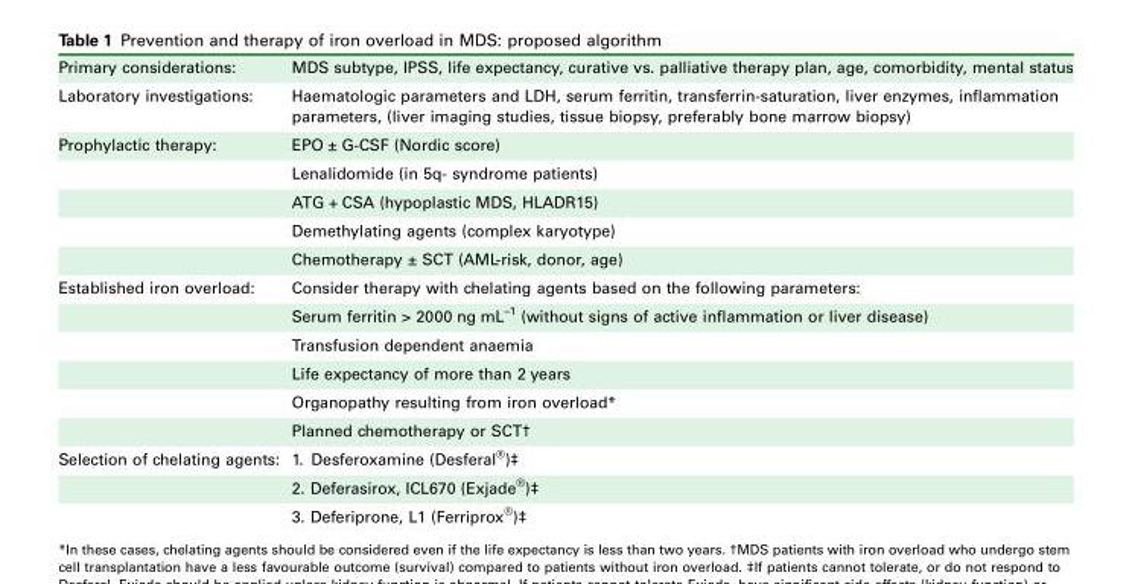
<table><tbody><tr><td>Primary considerations:</td><td>MDS subtype, IPSS, life expectancy, curative vs. palliative therapy plan, age, comorbidity, mental status</td></tr><tr><td>Laboratory investigations:</td><td>Haematologic parameters and LDH, serum ferritin, transferrin-saturation, liver enzymes, inflammation parameters, (liver imaging studies, tissue biopsy, preferably bone marrow biopsy)</td></tr><tr><td rowspan="5">Prophylactic therapy:</td><td>EPO ± G-CSF (Nordic score)</td></tr><tr><td>Lenalidomide (in 5q- syndrome patients)</td></tr><tr><td>ATG + CSA (hypoplastic MDS, HLADR15)</td></tr><tr><td>Demethylating agents (complex karyotype)</td></tr><tr><td>Chemotherapy ± SCT (AML-risk, donor, age)</td></tr><tr><td rowspan="6">Established iron overload:</td><td>Consider therapy with chelating agents based on the following parameters:</td></tr><tr><td>Serum ferritin &gt; 2000 ng mL<sup>–1</sup> (without signs of active inflammation or liver disease)</td></tr><tr><td>Transfusion dependent anaemia</td></tr><tr><td>Life expectancy of more than 2 years</td></tr><tr><td>Organopathy resulting from iron overload*</td></tr><tr><td>Planned chemotherapy or SCT†</td></tr><tr><td rowspan="3">Selection of chelating agents:</td><td>1. Desferoxamine (Desferal®)‡</td></tr><tr><td>2. Deferasirox, ICL670 (Exjade®)‡</td></tr><tr><td>3. Deferiprone, L1 (Ferriprox®)‡</td></tr></tbody></table>